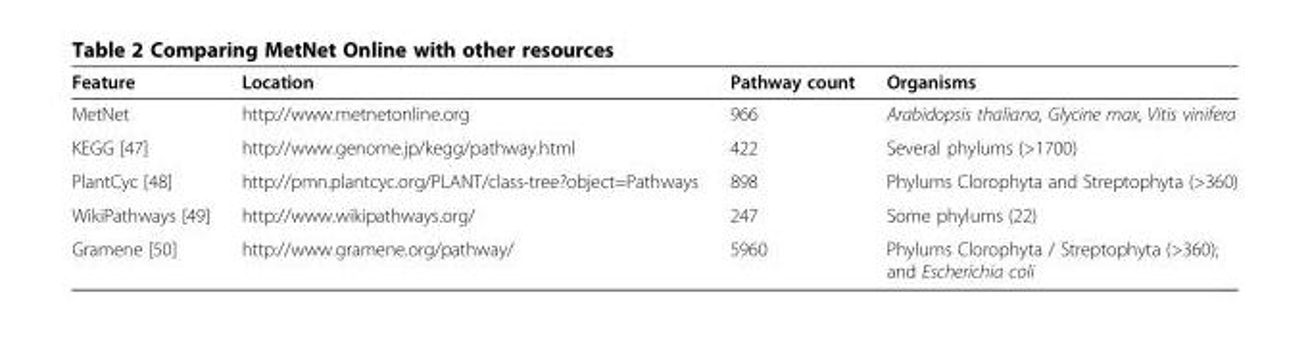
<table><thead><tr><td>Feature</td><td>Location</td><td>Pathway count</td><td>Organisms</td></tr></thead><tbody><tr><td>MetNet</td><td>http://www.metnetonline.org</td><td>966</td><td>Arabidopsis thaliana, Glycine max, Vitis vinifera</td></tr><tr><td>KEGG [47]</td><td>http://www.genome.jp/kegg/pathway.html</td><td>422</td><td>Several phylums (&gt;1700)</td></tr><tr><td>PlantCyc [48]</td><td>http://pmn.plantcyc.org/PLANT/class-tree?object=Pathways</td><td>898</td><td>Phylums Clorophyta and Streptophyta (&gt;360)</td></tr><tr><td>WikiPathways [49]</td><td>http://www.wikipathways.org/</td><td>247</td><td>Some phylums (22)</td></tr><tr><td>Gramene [50]</td><td>http://www.gramene.org/pathway/</td><td>5960</td><td>Phylums Clorophyta / Streptophyta (&gt;360); and Escherichia coli</td></tr></tbody></table>